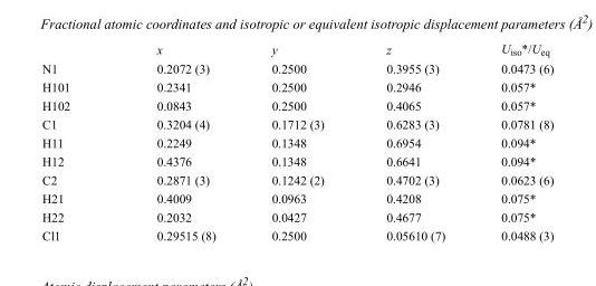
<table><thead><tr><td></td><td>x</td><td>y</td><td>z</td><td>U<sub>iso</sub>*/U<sub>eq</sub></td></tr></thead><tbody><tr><td>N1</td><td>0.2072 (3)</td><td>0.2500</td><td>0.3955 (3)</td><td>0.0473 (6)</td></tr><tr><td>H101</td><td>0.2341</td><td>0.2500</td><td>0.2946</td><td>0.057*</td></tr><tr><td>H102</td><td>0.0843</td><td>0.2500</td><td>0.4065</td><td>0.057*</td></tr><tr><td>C1</td><td>0.3204 (4)</td><td>0.1712 (3)</td><td>0.6283 (3)</td><td>0.0781 (8)</td></tr><tr><td>H11</td><td>0.2249</td><td>0.1348</td><td>0.6954</td><td>0.094*</td></tr><tr><td>H12</td><td>0.4376</td><td>0.1348</td><td>0.6641</td><td>0.094*</td></tr><tr><td>C2</td><td>0.2871 (3)</td><td>0.1242 (2)</td><td>0.4702 (3)</td><td>0.0623 (6)</td></tr><tr><td>H21</td><td>0.4009</td><td>0.0963</td><td>0.4208</td><td>0.075*</td></tr><tr><td>H22</td><td>0.2032</td><td>0.0427</td><td>0.4677</td><td>0.075*</td></tr><tr><td>Cl1</td><td>0.29515 (8)</td><td>0.2500</td><td>0.05610 (7)</td><td>0.0488 (3)</td></tr></tbody></table>